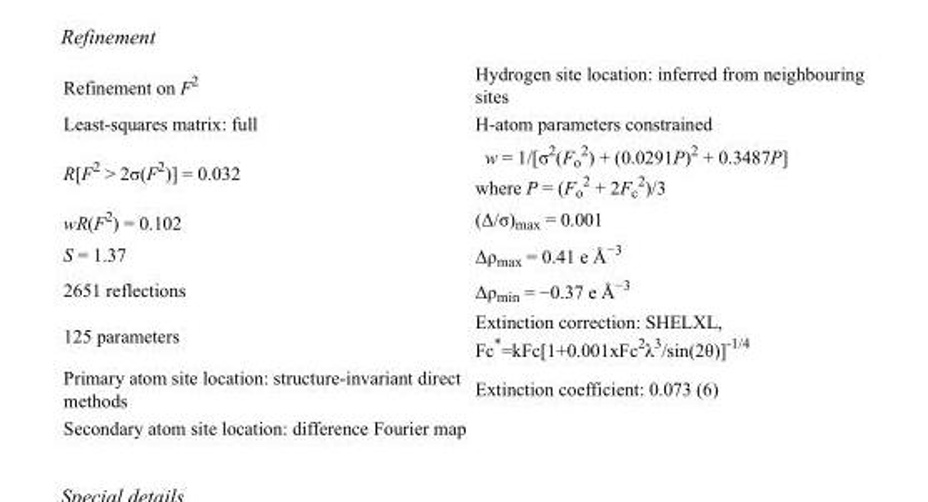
<table><tbody><tr><td>Refinement on F<sup>2</sup></td><td>Hydrogen site location: inferred from neighbouring sites</td></tr><tr><td>Least-squares matrix: full</td><td>H-atom parameters constrained</td></tr><tr><td>R[F<sup>2</sup> &gt; 2σ(F<sup>2</sup>)] = 0.032</td><td>w = 1/[σ<sup>2</sup>(F<sub>o</sub> <sup>2</sup>) + (0.0291P)<sup>2</sup> + 0.3487P] where P = (F<sub>o</sub> <sup>2</sup> + 2F<sub>c</sub> <sup>2</sup>)/3</td></tr><tr><td>wR(F<sup>2</sup>) = 0.102</td><td>(Δ/σ)<sub>max</sub> = 0.001</td></tr><tr><td>S = 1.37</td><td>Δρ<sub>max</sub> = 0.41 e Å<sup>−3</sup></td></tr><tr><td>2651 reflections</td><td>Δρ<sub>min</sub> = −0.37 e Å<sup>−3</sup></td></tr><tr><td>125 parameters</td><td>Extinction correction: SHELXL, Fc*=kFc[1+0.001xFc<sup>2</sup>λ<sup>3</sup>/sin(2θ)]<sup>-1/4</sup></td></tr><tr><td>Primary atom site location: structure-invariant direct methods</td><td>Extinction coefficient: 0.073 (6)</td></tr><tr><td>Secondary atom site location: difference Fourier map</td><td></td></tr></tbody></table>